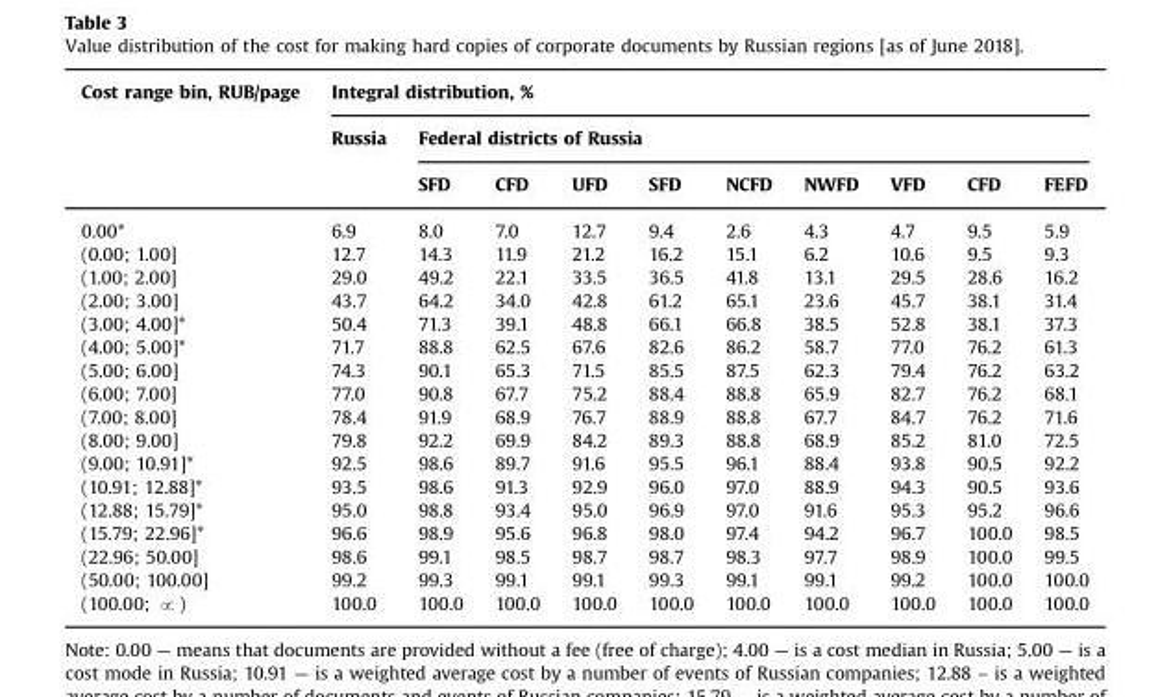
<table><thead><tr><td rowspan="3">Cost range bin, RUB/page</td><td colspan="10">Integral distribution, %</td></tr><tr><td rowspan="2">Russia</td><td colspan="9">Federal districts of Russia</td></tr><tr><td>SFD</td><td>CFD</td><td>UFD</td><td>SFD</td><td>NCFD</td><td>NWFD</td><td>VFD</td><td>CFD</td><td>FEFD</td></tr></thead><tbody><tr><td>0.00*</td><td>6.9</td><td>8.0</td><td>7.0</td><td>12.7</td><td>9.4</td><td>2.6</td><td>4.3</td><td>4.7</td><td>9.5</td><td>5.9</td></tr><tr><td>(0.00; 1.00]</td><td>12.7</td><td>14.3</td><td>11.9</td><td>21.2</td><td>16.2</td><td>15.1</td><td>6.2</td><td>10.6</td><td>9.5</td><td>9.3</td></tr><tr><td>(1.00; 2.00]</td><td>29.0</td><td>49.2</td><td>22.1</td><td>33.5</td><td>36.5</td><td>41.8</td><td>13.1</td><td>29.5</td><td>28.6</td><td>16.2</td></tr><tr><td>(2.00; 3.00]</td><td>43.7</td><td>64.2</td><td>34.0</td><td>42.8</td><td>61.2</td><td>65.1</td><td>23.6</td><td>45.7</td><td>38.1</td><td>31.4</td></tr><tr><td>(3.00; 4.00]*</td><td>50.4</td><td>71.3</td><td>39.1</td><td>48.8</td><td>66.1</td><td>66.8</td><td>38.5</td><td>52.8</td><td>38.1</td><td>37.3</td></tr><tr><td>(4.00; 5.00]*</td><td>71.7</td><td>88.8</td><td>62.5</td><td>67.6</td><td>82.6</td><td>86.2</td><td>58.7</td><td>77.0</td><td>76.2</td><td>61.3</td></tr><tr><td>(5.00; 6.00]</td><td>74.3</td><td>90.1</td><td>65.3</td><td>71.5</td><td>85.5</td><td>87.5</td><td>62.3</td><td>79.4</td><td>76.2</td><td>63.2</td></tr><tr><td>(6.00; 7.00]</td><td>77.0</td><td>90.8</td><td>67.7</td><td>75.2</td><td>88.4</td><td>88.8</td><td>65.9</td><td>82.7</td><td>76.2</td><td>68.1</td></tr><tr><td>(7.00; 8.00]</td><td>78.4</td><td>91.9</td><td>68.9</td><td>76.7</td><td>88.9</td><td>88.8</td><td>67.7</td><td>84.7</td><td>76.2</td><td>71.6</td></tr><tr><td>(8.00; 9.00]</td><td>79.8</td><td>92.2</td><td>69.9</td><td>84.2</td><td>89.3</td><td>88.8</td><td>68.9</td><td>85.2</td><td>81.0</td><td>72.5</td></tr><tr><td>(9.00; 10.91]*</td><td>92.5</td><td>98.6</td><td>89.7</td><td>91.6</td><td>95.5</td><td>96.1</td><td>88.4</td><td>93.8</td><td>90.5</td><td>92.2</td></tr><tr><td>(10.91; 12.88]*</td><td>93.5</td><td>98.6</td><td>91.3</td><td>92.9</td><td>96.0</td><td>97.0</td><td>88.9</td><td>94.3</td><td>90.5</td><td>93.6</td></tr><tr><td>(12.88; 15.79]*</td><td>95.0</td><td>98.8</td><td>93.4</td><td>95.0</td><td>96.9</td><td>97.0</td><td>91.6</td><td>95.3</td><td>95.2</td><td>96.6</td></tr><tr><td>(15.79; 22.96]*</td><td>96.6</td><td>98.9</td><td>95.6</td><td>96.8</td><td>98.0</td><td>97.4</td><td>94.2</td><td>96.7</td><td>100.0</td><td>98.5</td></tr><tr><td>(22.96; 50.00]</td><td>98.6</td><td>99.1</td><td>98.5</td><td>98.7</td><td>98.7</td><td>98.3</td><td>97.7</td><td>98.9</td><td>100.0</td><td>99.5</td></tr><tr><td>(50.00; 100.00]</td><td>99.2</td><td>99.3</td><td>99.1</td><td>99.1</td><td>99.3</td><td>99.1</td><td>99.1</td><td>99.2</td><td>100.0</td><td>100.0</td></tr><tr><td>(100.00; ∝)</td><td>100.0</td><td>100.0</td><td>100.0</td><td>100.0</td><td>100.0</td><td>100.0</td><td>100.0</td><td>100.0</td><td>100.0</td><td>100.0</td></tr></tbody></table>